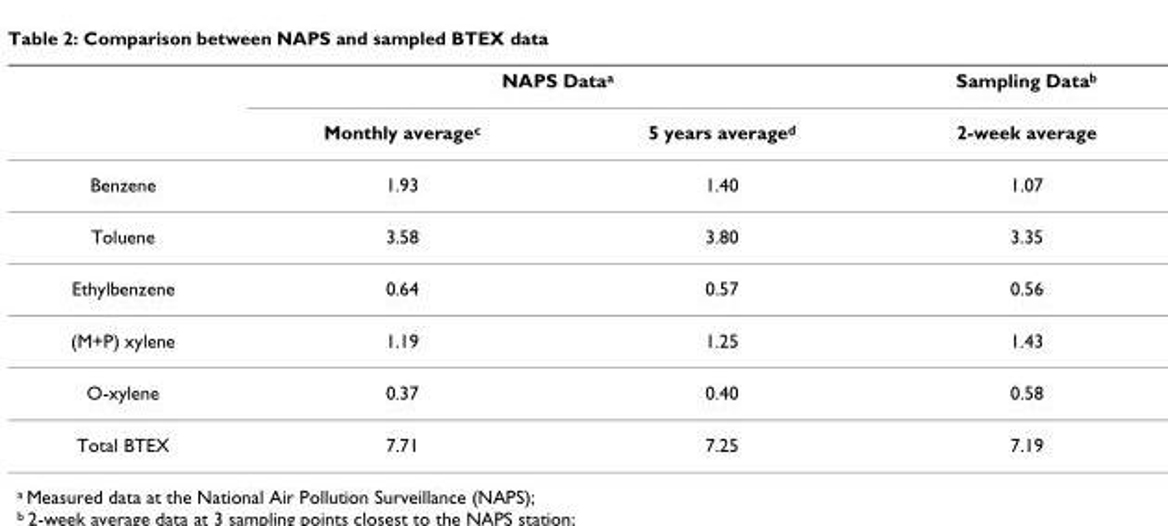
<table><thead><tr><td rowspan="2"></td><td colspan="2">NAPS Data<sup>a</sup></td><td rowspan="2">Sampling Data<sup>b</sup> 2-week average</td></tr><tr><td>Monthly average<sup>c</sup></td><td>5 years average<sup>d</sup></td></tr></thead><tbody><tr><td>Benzene</td><td>1.93</td><td>1.40</td><td>1.07</td></tr><tr><td>Toluene</td><td>3.58</td><td>3.80</td><td>3.35</td></tr><tr><td>Ethylbenzene</td><td>0.64</td><td>0.57</td><td>0.56</td></tr><tr><td>(M+P) xylene</td><td>1.19</td><td>1.25</td><td>1.43</td></tr><tr><td>O-xylene</td><td>0.37</td><td>0.40</td><td>0.58</td></tr><tr><td>Total BTEX</td><td>7.71</td><td>7.25</td><td>7.19</td></tr></tbody></table>